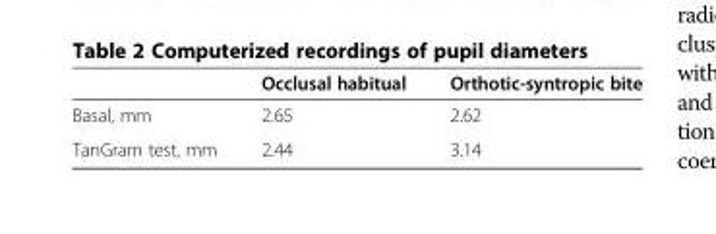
<table><thead><tr><td></td><td>Occlusal habitual</td><td>Orthotic-syntropic bite</td></tr></thead><tbody><tr><td>Basal, mm</td><td>2.65</td><td>2.62</td></tr><tr><td>TanGram test, mm</td><td>2.44</td><td>3.14</td></tr></tbody></table>